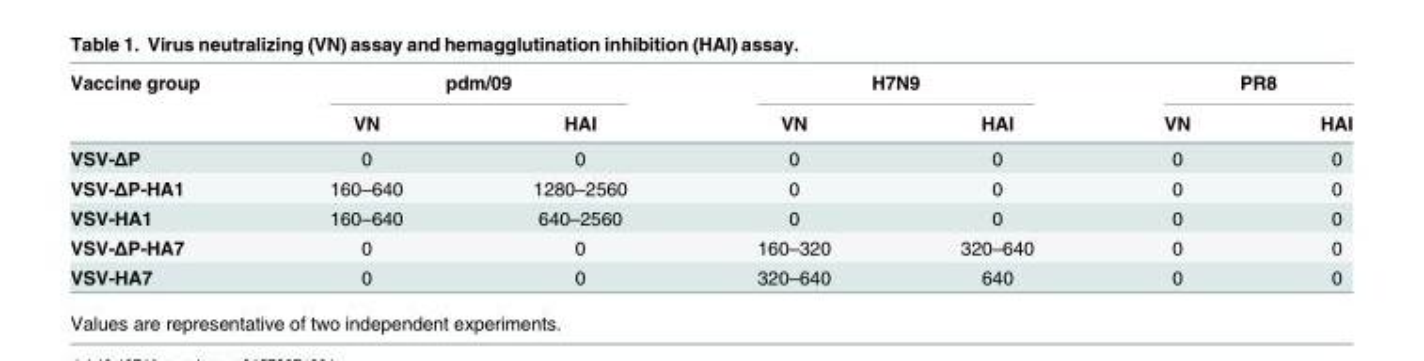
<table><thead><tr><td rowspan="2">Vaccine group</td><td colspan="2">pdm/09</td><td colspan="2">H7N9</td><td colspan="2">PR8</td></tr><tr><td>VN</td><td>HAI</td><td>VN</td><td>HAI</td><td>VN</td><td>HAI</td></tr></thead><tbody><tr><td>VSV-ΔP</td><td>0</td><td>0</td><td>0</td><td>0</td><td>0</td><td>0</td></tr><tr><td>VSV-ΔP-HA1</td><td>160–640</td><td>1280–2560</td><td>0</td><td>0</td><td>0</td><td>0</td></tr><tr><td>VSV-HA1</td><td>160–640</td><td>640–2560</td><td>0</td><td>0</td><td>0</td><td>0</td></tr><tr><td>VSV-ΔP-HA7</td><td>0</td><td>0</td><td>160–320</td><td>320–640</td><td>0</td><td>0</td></tr><tr><td>VSV-HA7</td><td>0</td><td>0</td><td>320–640</td><td>640</td><td>0</td><td>0</td></tr></tbody></table>